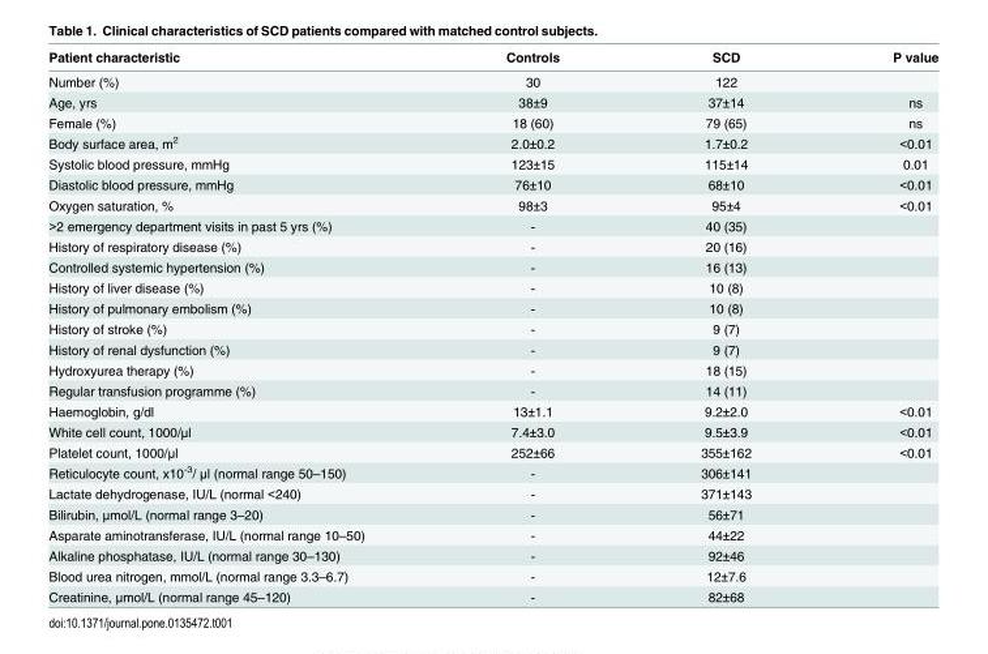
<table><thead><tr><td>Patient characteristic</td><td>Controls</td><td>SCD</td><td>P value</td></tr></thead><tbody><tr><td>Number (%)</td><td>30</td><td>122</td><td></td></tr><tr><td>Age, yrs</td><td>38±9</td><td>37±14</td><td>ns</td></tr><tr><td>Female (%)</td><td>18 (60)</td><td>79 (65)</td><td>ns</td></tr><tr><td>Body surface area, m<sup>2</sup></td><td>2.0±0.2</td><td>1.7±0.2</td><td>&lt;0.01</td></tr><tr><td>Systolic blood pressure, mmHg</td><td>123±15</td><td>115±14</td><td>0.01</td></tr><tr><td>Diastolic blood pressure, mmHg</td><td>76±10</td><td>68±10</td><td>&lt;0.01</td></tr><tr><td>Oxygen saturation, %</td><td>98±3</td><td>95±4</td><td>&lt;0.01</td></tr><tr><td>&gt;2 emergency department visits in past 5 yrs (%)</td><td>-</td><td>40 (35)</td><td></td></tr><tr><td>History of respiratory disease (%)</td><td>-</td><td>20 (16)</td><td></td></tr><tr><td>Controlled systemic hypertension (%)</td><td>-</td><td>16 (13)</td><td></td></tr><tr><td>History of liver disease (%)</td><td>-</td><td>10 (8)</td><td></td></tr><tr><td>History of pulmonary embolism (%)</td><td>-</td><td>10 (8)</td><td></td></tr><tr><td>History of stroke (%)</td><td>-</td><td>9 (7)</td><td></td></tr><tr><td>History of renal dysfunction (%)</td><td>-</td><td>9 (7)</td><td></td></tr><tr><td>Hydroxyurea therapy (%)</td><td>-</td><td>18 (15)</td><td></td></tr><tr><td>Regular transfusion programme (%)</td><td>-</td><td>14 (11)</td><td></td></tr><tr><td>Haemoglobin, g/dl</td><td>13±1.1</td><td>9.2±2.0</td><td>&lt;0.01</td></tr><tr><td>White cell count, 1000/μl</td><td>7.4±3.0</td><td>9.5±3.9</td><td>&lt;0.01</td></tr><tr><td>Platelet count, 1000/μl</td><td>252±66</td><td>355±162</td><td>&lt;0.01</td></tr><tr><td>Reticulocyte count, x10<sup>-3</sup>/ μl (normal range 50–150)</td><td>-</td><td>306±141</td><td></td></tr><tr><td>Lactate dehydrogenase, IU/L (normal &lt;240)</td><td>-</td><td>371±143</td><td></td></tr><tr><td>Bilirubin, μmol/L (normal range 3–20)</td><td>-</td><td>56±71</td><td></td></tr><tr><td>Asparate aminotransferase, IU/L (normal range 10–50)</td><td>-</td><td>44±22</td><td></td></tr><tr><td>Alkaline phosphatase, IU/L (normal range 30–130)</td><td>-</td><td>92±46</td><td></td></tr><tr><td>Blood urea nitrogen, mmol/L (normal range 3.3–6.7)</td><td>-</td><td>12±7.6</td><td></td></tr><tr><td>Creatinine, μmol/L (normal range 45–120)</td><td>-</td><td>82±68</td><td></td></tr></tbody></table>